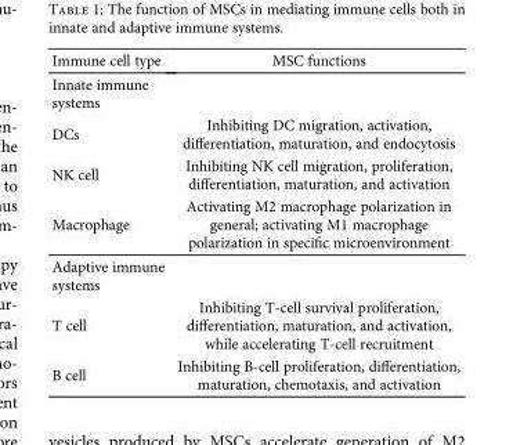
<table><thead><tr><td>Immune cell type</td><td>MSC functions</td></tr></thead><tbody><tr><td colspan="2">Innate immune systems</td></tr><tr><td>DCs</td><td>Inhibiting DC migration, activation, differentiation, maturation, and endocytosis</td></tr><tr><td>NK cell</td><td>Inhibiting NK cell migration, proliferation, differentiation, maturation, and activation</td></tr><tr><td>Macrophage</td><td>Activating M2 macrophage polarization in general; activating M1 macrophage polarization in specific microenvironment</td></tr><tr><td colspan="2">Adaptive immune systems</td></tr><tr><td>T cell</td><td>Inhibiting T-cell survival proliferation, differentiation, maturation, and activation, while accelerating T-cell recruitment</td></tr><tr><td>B cell</td><td>Inhibiting B-cell proliferation, differentiation, maturation, chemotaxis, and activation</td></tr></tbody></table>